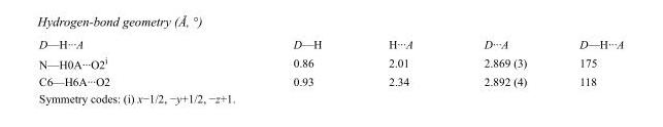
<table><tbody><tr><td>D—H···A</td><td>D—H</td><td>H···A</td><td>D···A</td><td>D—H···A</td></tr><tr><td>N—H0A···O2<sup>i</sup></td><td>0.86</td><td>2.01</td><td>2.869 (3)</td><td>175</td></tr><tr><td>C6—H6A···O2</td><td>0.93</td><td>2.34</td><td>2.892 (4)</td><td>118</td></tr></tbody></table>